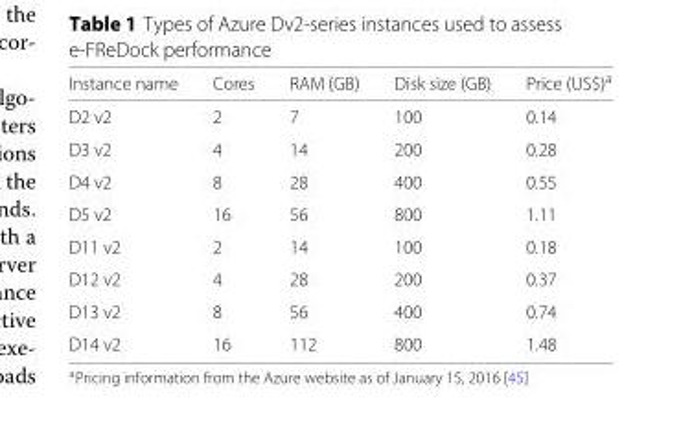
<table><thead><tr><td>Instance name</td><td>Cores</td><td>RAM (GB)</td><td>Disk size (GB)</td><td>Price (US$)<sup>a</sup></td></tr></thead><tbody><tr><td>D2 v2</td><td>2</td><td>7</td><td>100</td><td>0.14</td></tr><tr><td>D3 v2</td><td>4</td><td>14</td><td>200</td><td>0.28</td></tr><tr><td>D4 v2</td><td>8</td><td>28</td><td>400</td><td>0.55</td></tr><tr><td>D5 v2</td><td>16</td><td>56</td><td>800</td><td>1.11</td></tr><tr><td>D11 v2</td><td>2</td><td>14</td><td>100</td><td>0.18</td></tr><tr><td>D12 v2</td><td>4</td><td>28</td><td>200</td><td>0.37</td></tr><tr><td>D13 v2</td><td>8</td><td>56</td><td>400</td><td>0.74</td></tr><tr><td>D14 v2</td><td>16</td><td>112</td><td>800</td><td>1.48</td></tr></tbody></table>